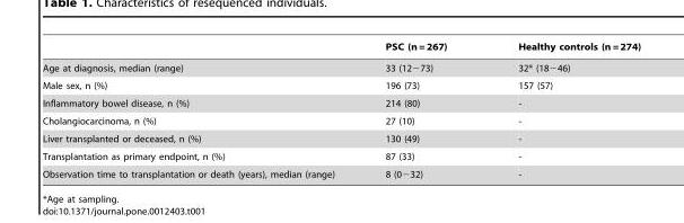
<table><thead><tr><td></td><td>PSC (n = 267)</td><td>Healthy controls (n = 274)</td></tr></thead><tbody><tr><td>Age at diagnosis, median (range)</td><td>33 (12−73)</td><td>32* (18−46)</td></tr><tr><td>Male sex, n (%)</td><td>196 (73)</td><td>157 (57)</td></tr><tr><td>Inflammatory bowel disease, n (%)</td><td>214 (80)</td><td>-</td></tr><tr><td>Cholangiocarcinoma, n (%)</td><td>27 (10)</td><td>-</td></tr><tr><td>Liver transplanted or deceased, n (%)</td><td>130 (49)</td><td>-</td></tr><tr><td>Transplantation as primary endpoint, n (%)</td><td>87 (33)</td><td>-</td></tr><tr><td>Observation time to transplantation or death (years), median (range)</td><td>8 (0−32)</td><td>-</td></tr></tbody></table>